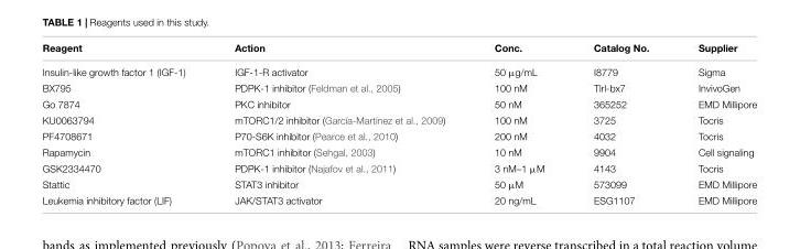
<table><thead><tr><td>Reagent</td><td>Action</td><td>Conc.</td><td>Catalog No.</td><td>Supplier</td></tr></thead><tbody><tr><td>Insulin-like growth factor 1 (IGF-1)</td><td>IGF-1-R activator</td><td>50 µg/mL</td><td>I8779</td><td>Sigma</td></tr><tr><td>BX795</td><td>PDPK-1 inhibitor (Feldman et al., 2005)</td><td>100 nM</td><td>Tlrl-bx7</td><td>InvivoGen</td></tr><tr><td>Go 7874</td><td>PKC inhibitor</td><td>50 nM</td><td>365252</td><td>EMD Millipore</td></tr><tr><td>KU0063794</td><td>mTORC1/2 inhibitor (García-Martínez et al., 2009)</td><td>100 nM</td><td>3725</td><td>Tocris</td></tr><tr><td>PF4708671</td><td>P70-S6K inhibitor (Pearce et al., 2010)</td><td>200 nM</td><td>4032</td><td>Tocris</td></tr><tr><td>Rapamycin</td><td>mTORC1 inhibitor (Sehgal, 2003)</td><td>10 nM</td><td>9904</td><td>Cell signaling</td></tr><tr><td>GSK2334470</td><td>PDPK-1 inhibitor (Najafov et al., 2011)</td><td>3 nM–1 µM</td><td>4143</td><td>Tocris</td></tr><tr><td>Stattic</td><td>STAT3 inhibitor</td><td>50 µM</td><td>573099</td><td>EMD Millipore</td></tr><tr><td>Leukemia inhibitory factor (LIF)</td><td>JAK/STAT3 activator</td><td>20 ng/mL</td><td>ESG1107</td><td>EMD Millipore</td></tr></tbody></table>